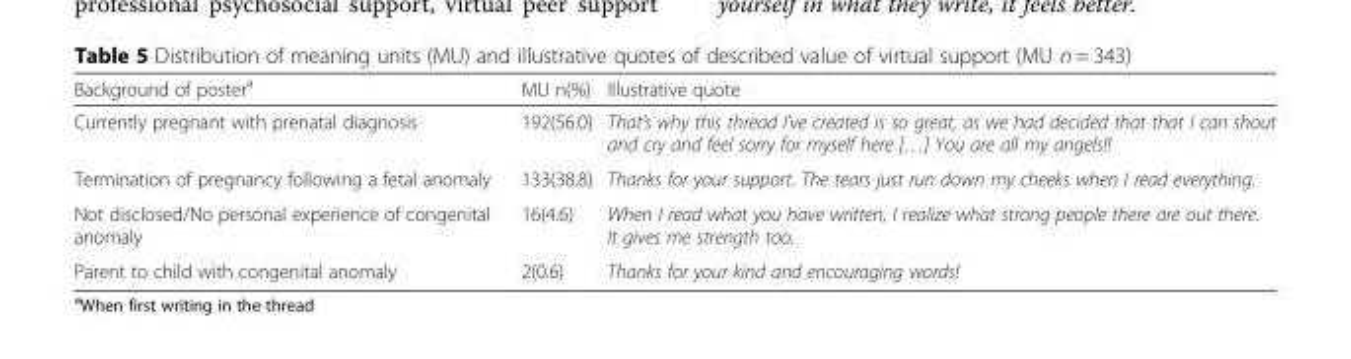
<table><thead><tr><td>Background of poster<sup>a</sup></td><td>MU n(%)</td><td>Illustrative quote</td></tr></thead><tbody><tr><td>Currently pregnant with prenatal diagnosis</td><td>192(56.0)</td><td>That’s why this thread I’ve created is so great, as we had decided that that I can shout and cry and feel sorry for myself here […] You are all my angels!!</td></tr><tr><td>Termination of pregnancy following a fetal anomaly</td><td>133(38.8)</td><td>Thanks for your support. The tears just run down my cheeks when I read everything.</td></tr><tr><td>Not disclosed/No personal experience of congenital anomaly</td><td>16(4.6)</td><td>When I read what you have written, I realize what strong people there are out there. It gives me strength too.</td></tr><tr><td>Parent to child with congenital anomaly</td><td>2(0.6)</td><td>Thanks for your kind and encouraging words!</td></tr></tbody></table>